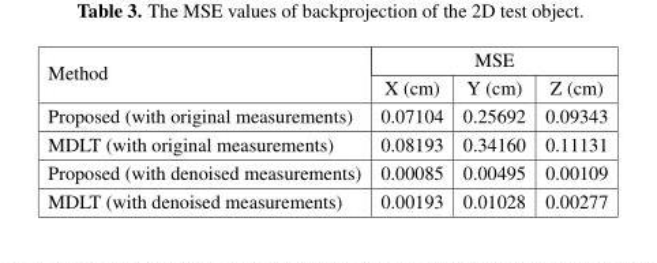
<table><thead><tr><td rowspan="2">Method</td><td colspan="3">MSE</td></tr><tr><td>X (cm)</td><td>Y (cm)</td><td>Z (cm)</td></tr></thead><tbody><tr><td>Proposed (with original measurements)</td><td>0.07104</td><td>0.25692</td><td>0.09343</td></tr><tr><td>MDLT (with original measurements)</td><td>0.08193</td><td>0.34160</td><td>0.11131</td></tr><tr><td>Proposed (with denoised measurements)</td><td>0.00085</td><td>0.00495</td><td>0.00109</td></tr><tr><td>MDLT (with denoised measurements)</td><td>0.00193</td><td>0.01028</td><td>0.00277</td></tr></tbody></table>